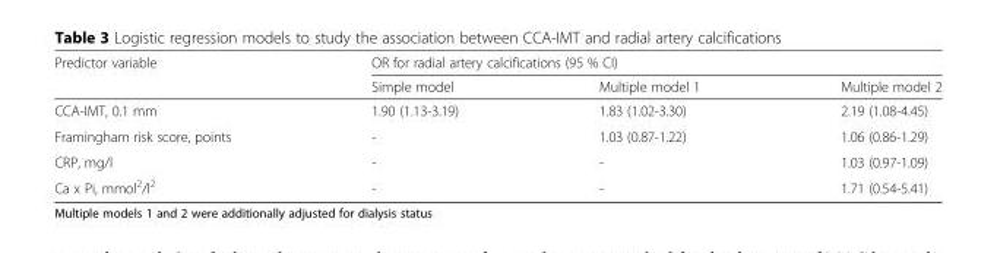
<table><thead><tr><td rowspan="2">Predictor variable</td><td colspan="3">OR for radial artery calcifications (95 % CI)</td></tr><tr><td>Simple model</td><td>Multiple model 1</td><td>Multiple model 2</td></tr></thead><tbody><tr><td>CCA-IMT, 0.1 mm</td><td>1.90 (1.13-3.19)</td><td>1.83 (1.02-3.30)</td><td>2.19 (1.08-4.45)</td></tr><tr><td>Framingham risk score, points</td><td>-</td><td>1.03 (0.87-1.22)</td><td>1.06 (0.86-1.29)</td></tr><tr><td>CRP, mg/l</td><td>-</td><td>-</td><td>1.03 (0.97-1.09)</td></tr><tr><td>Ca x Pi, mmol<sup>2</sup>/l<sup>2</sup></td><td>-</td><td>-</td><td>1.71 (0.54-5.41)</td></tr></tbody></table>